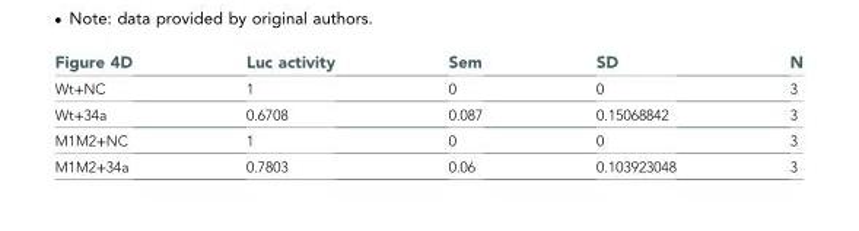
<table><thead><tr><td>Figure 4D</td><td>Luc activity</td><td>Sem</td><td>SD</td><td>N</td></tr></thead><tbody><tr><td>Wt+NC</td><td>1</td><td>0</td><td>0</td><td>3</td></tr><tr><td>Wt+34a</td><td>0.6708</td><td>0.087</td><td>0.15068842</td><td>3</td></tr><tr><td>M1M2+NC</td><td>1</td><td>0</td><td>0</td><td>3</td></tr><tr><td>M1M2+34a</td><td>0.7803</td><td>0.06</td><td>0.103923048</td><td>3</td></tr></tbody></table>